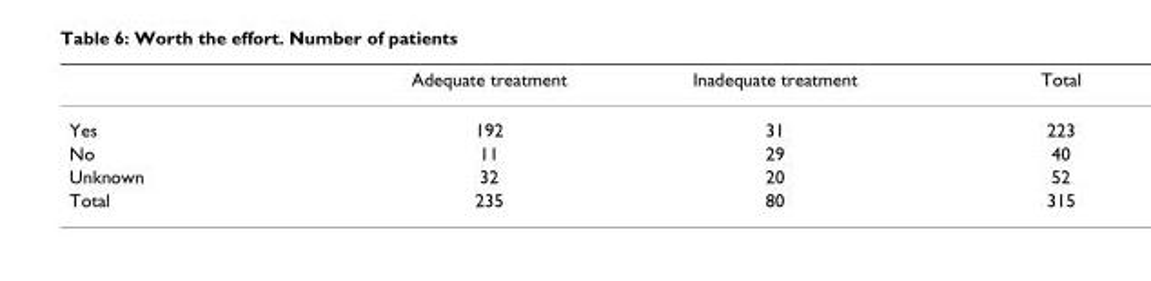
<table><thead><tr><td></td><td>Adequate treatment</td><td>Inadequate treatment</td><td>Total</td></tr></thead><tbody><tr><td>Yes</td><td>192</td><td>31</td><td>223</td></tr><tr><td>No</td><td>11</td><td>29</td><td>40</td></tr><tr><td>Unknown</td><td>32</td><td>20</td><td>52</td></tr><tr><td>Total</td><td>235</td><td>80</td><td>315</td></tr></tbody></table>